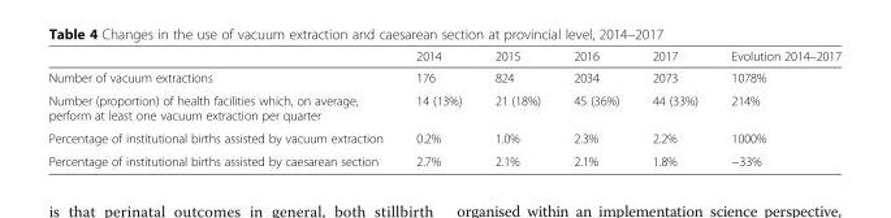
<table><thead><tr><td></td><td>2014</td><td>2015</td><td>2016</td><td>2017</td><td>Evolution 2014–2017</td></tr></thead><tbody><tr><td>Number of vacuum extractions</td><td>176</td><td>824</td><td>2034</td><td>2073</td><td>1078%</td></tr><tr><td>Number (proportion) of health facilities which, on average, perform at least one vacuum extraction per quarter</td><td>14 (13%)</td><td>21 (18%)</td><td>45 (36%)</td><td>44 (33%)</td><td>214%</td></tr><tr><td>Percentage of institutional births assisted by vacuum extraction</td><td>0.2%</td><td>1.0%</td><td>2.3%</td><td>2.2%</td><td>1000%</td></tr><tr><td>Percentage of institutional births assisted by caesarean section</td><td>2.7%</td><td>2.1%</td><td>2.1%</td><td>1.8%</td><td>−33%</td></tr></tbody></table>